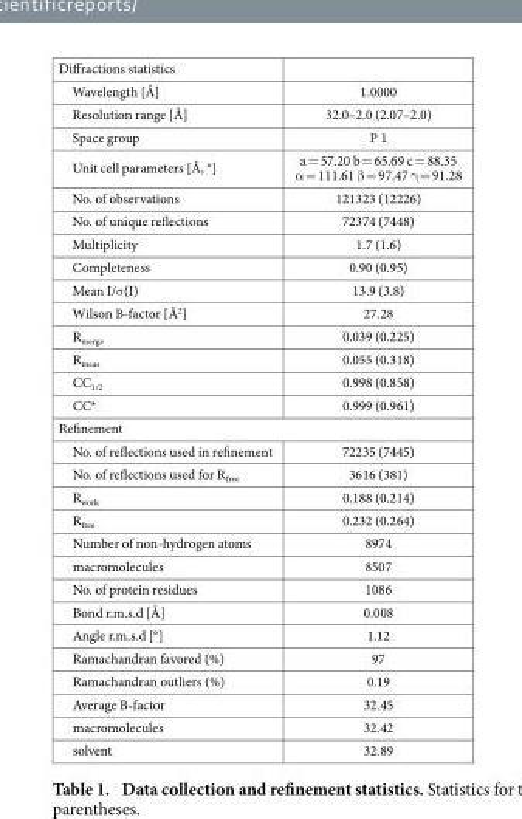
<table><tbody><tr><td colspan="2">Diffractions statistics</td></tr><tr><td>Wavelength [Å]</td><td>1.0000</td></tr><tr><td>Resolution range [Å]</td><td>32.0–2.0 (2.07–2.0)</td></tr><tr><td>Space group</td><td>P 1</td></tr><tr><td>Unit cell parameters [Å, °]</td><td>a = 57.20 b = 65.69 c = 88.35 α = 111.61 β = 97.47 γ = 91.28</td></tr><tr><td>No. of observations</td><td>121323 (12226)</td></tr><tr><td>No. of unique reflections</td><td>72374 (7448)</td></tr><tr><td>Multiplicity</td><td>1.7 (1.6)</td></tr><tr><td>Completeness</td><td>0.90 (0.95)</td></tr><tr><td>Mean I/σ (I)</td><td>13.9 (3.8)</td></tr><tr><td>Wilson B-factor [Å<sup>2</sup>]</td><td>27.28</td></tr><tr><td>R<sub>merge</sub></td><td>0.039 (0.225)</td></tr><tr><td>R<sub>meas</sub></td><td>0.055 (0.318)</td></tr><tr><td>CC<sub>1/2</sub></td><td>0.998 (0.858)</td></tr><tr><td>CC*</td><td>0.999 (0.961)</td></tr><tr><td colspan="2">Refinement</td></tr><tr><td>No. of reflections used in refinement</td><td>72235 (7445)</td></tr><tr><td>No. of reflections used for R<sub>free</sub></td><td>3616 (381)</td></tr><tr><td>R<sub>work</sub></td><td>0.188 (0.214)</td></tr><tr><td>R<sub>free</sub></td><td>0.232 (0.264)</td></tr><tr><td>Number of non-hydrogen atoms</td><td>8974</td></tr><tr><td>macromolecules</td><td>8507</td></tr><tr><td>No. of protein residues</td><td>1086</td></tr><tr><td>Bond r.m.s.d [Å]</td><td>0.008</td></tr><tr><td>Angle r.m.s.d [°]</td><td>1.12</td></tr><tr><td>Ramachandran favored (%)</td><td>97</td></tr><tr><td>Ramachandran outliers (%)</td><td>0.19</td></tr><tr><td>Average B-factor</td><td>32.45</td></tr><tr><td>macromolecules</td><td>32.42</td></tr><tr><td>solvent</td><td>32.89</td></tr></tbody></table>